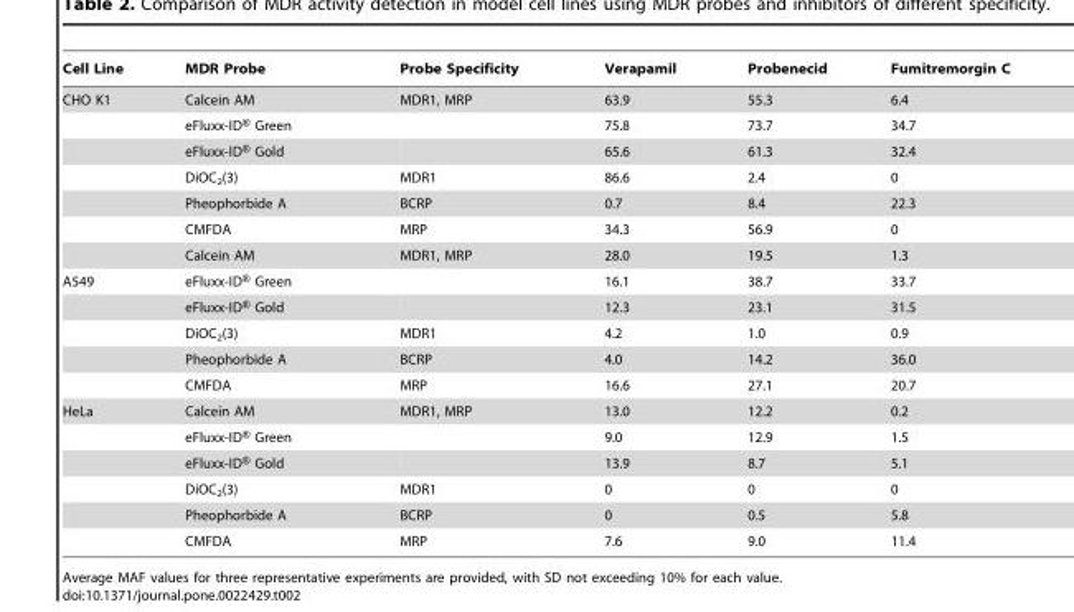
<table><thead><tr><td>Cell Line</td><td>MDR Probe</td><td>Probe Specificity</td><td>Verapamil</td><td>Probenecid</td><td>Fumitremorgin C</td></tr></thead><tbody><tr><td rowspan="7">CHO K1</td><td>Calcein AM</td><td>MDR1, MRP</td><td>63.9</td><td>55.3</td><td>6.4</td></tr><tr><td>eFluxx-ID® Green</td><td></td><td>75.8</td><td>73.7</td><td>34.7</td></tr><tr><td>eFluxx-ID® Gold</td><td></td><td>65.6</td><td>61.3</td><td>32.4</td></tr><tr><td>DiOC<sub>2</sub>(3)</td><td>MDR1</td><td>86.6</td><td>2.4</td><td>0</td></tr><tr><td>Pheophorbide A</td><td>BCRP</td><td>0.7</td><td>8.4</td><td>22.3</td></tr><tr><td>CMFDA</td><td>MRP</td><td>34.3</td><td>56.9</td><td>0</td></tr><tr><td>Calcein AM</td><td>MDR1, MRP</td><td>28.0</td><td>19.5</td><td>1.3</td></tr><tr><td rowspan="5">A549</td><td>eFluxx-ID® Green</td><td></td><td>16.1</td><td>38.7</td><td>33.7</td></tr><tr><td>eFluxx-ID® Gold</td><td></td><td>12.3</td><td>23.1</td><td>31.5</td></tr><tr><td>DiOC<sub>2</sub>(3)</td><td>MDR1</td><td>4.2</td><td>1.0</td><td>0.9</td></tr><tr><td>Pheophorbide A</td><td>BCRP</td><td>4.0</td><td>14.2</td><td>36.0</td></tr><tr><td>CMFDA</td><td>MRP</td><td>16.6</td><td>27.1</td><td>20.7</td></tr><tr><td rowspan="6">HeLa</td><td>Calcein AM</td><td>MDR1, MRP</td><td>13.0</td><td>12.2</td><td>0.2</td></tr><tr><td>eFluxx-ID® Green</td><td></td><td>9.0</td><td>12.9</td><td>1.5</td></tr><tr><td>eFluxx-ID® Gold</td><td></td><td>13.9</td><td>8.7</td><td>5.1</td></tr><tr><td>DiOC<sub>2</sub>(3)</td><td>MDR1</td><td>0</td><td>0</td><td>0</td></tr><tr><td>Pheophorbide A</td><td>BCRP</td><td>0</td><td>0.5</td><td>5.8</td></tr><tr><td>CMFDA</td><td>MRP</td><td>7.6</td><td>9.0</td><td>11.4</td></tr></tbody></table>